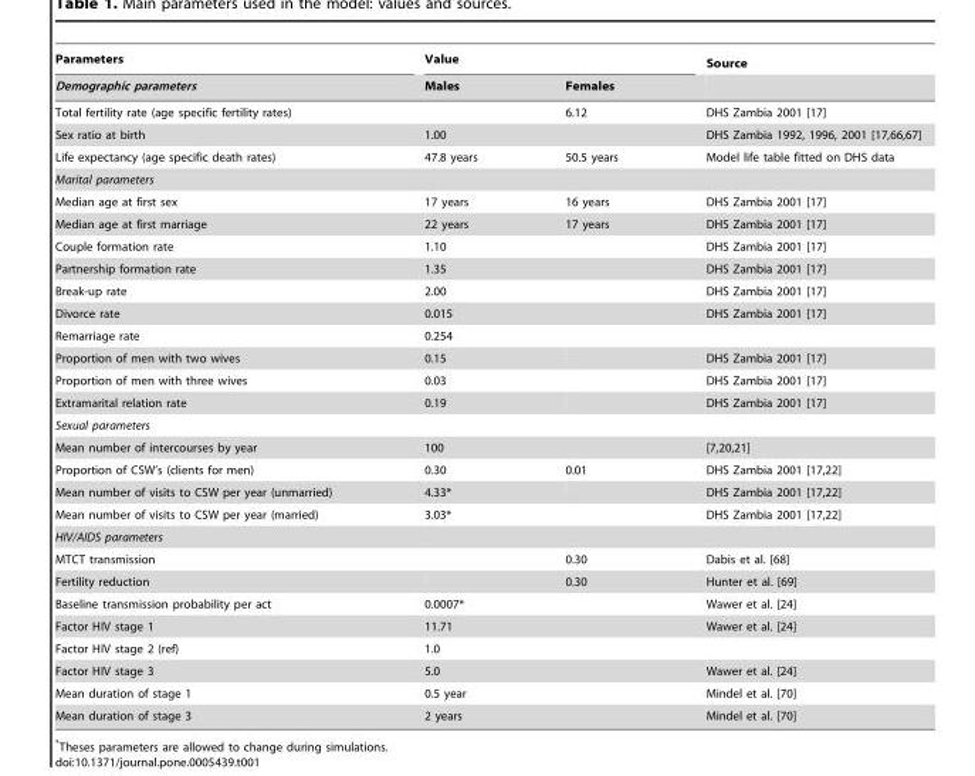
<table><thead><tr><td rowspan="2">Parameters Demographic parameters</td><td colspan="2">Value</td><td rowspan="2">Source</td></tr><tr><td>Males</td><td>Females</td></tr></thead><tbody><tr><td>Total fertility rate (age specific fertility rates)</td><td></td><td>6.12</td><td>DHS Zambia 2001 [17]</td></tr><tr><td>Sex ratio at birth</td><td colspan="2">1.00</td><td>DHS Zambia 1992, 1996, 2001 [17,66,67]</td></tr><tr><td>Life expectancy (age specific death rates)</td><td>47.8 years</td><td>50.5 years</td><td>Model life table fitted on DHS data</td></tr><tr><td colspan="4">Marital parameters</td></tr><tr><td>Median age at first sex</td><td>17 years</td><td>16 years</td><td>DHS Zambia 2001 [17]</td></tr><tr><td>Median age at first marriage</td><td>22 years</td><td>17 years</td><td>DHS Zambia 2001 [17]</td></tr><tr><td>Couple formation rate</td><td colspan="2">1.10</td><td>DHS Zambia 2001 [17]</td></tr><tr><td>Partnership formation rate</td><td colspan="2">1.35</td><td>DHS Zambia 2001 [17]</td></tr><tr><td>Break-up rate</td><td colspan="2">2.00</td><td>DHS Zambia 2001 [17]</td></tr><tr><td>Divorce rate</td><td colspan="2">0.015</td><td>DHS Zambia 2001 [17]</td></tr><tr><td>Remarriage rate</td><td>0.254</td><td></td><td></td></tr><tr><td>Proportion of men with two wives</td><td>0.15</td><td></td><td>DHS Zambia 2001 [17]</td></tr><tr><td>Proportion of men with three wives</td><td>0.03</td><td></td><td>DHS Zambia 2001 [17]</td></tr><tr><td>Extramarital relation rate</td><td>0.19</td><td></td><td>DHS Zambia 2001 [17]</td></tr><tr><td colspan="4">Sexual parameters</td></tr><tr><td>Mean number of intercourses by year</td><td colspan="2">100</td><td>[7,20,21]</td></tr><tr><td>Proportion of CSW’s (clients for men)</td><td>0.30</td><td>0.01</td><td>DHS Zambia 2001 [17,22]</td></tr><tr><td>Mean number of visits to CSW per year (unmarried)</td><td>4.33*</td><td></td><td>DHS Zambia 2001 [17,22]</td></tr><tr><td>Mean number of visits to CSW per year (married)</td><td>3.03*</td><td></td><td>DHS Zambia 2001 [17,22]</td></tr><tr><td colspan="4">HIV/AIDS parameters</td></tr><tr><td>MTCT transmission</td><td></td><td>0.30</td><td>Dabis et al. [68]</td></tr><tr><td>Fertility reduction</td><td></td><td>0.30</td><td>Hunter et al. [69]</td></tr><tr><td>Baseline transmission probability per act</td><td colspan="2">0.0007*</td><td>Wawer et al. [24]</td></tr><tr><td>Factor HIV stage 1</td><td colspan="2">11.71</td><td>Wawer et al. [24]</td></tr><tr><td>Factor HIV stage 2 (ref)</td><td colspan="2">1.0</td><td></td></tr><tr><td>Factor HIV stage 3</td><td colspan="2">5.0</td><td>Wawer et al. [24]</td></tr><tr><td>Mean duration of stage 1</td><td colspan="2">0.5 year</td><td>Mindel et al. [70]</td></tr><tr><td>Mean duration of stage 3</td><td colspan="2">2 years</td><td>Mindel et al. [70]</td></tr></tbody></table>